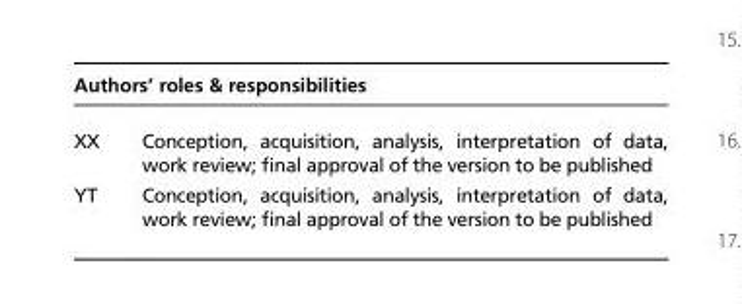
<table><thead><tr><td colspan="2">Authors’ roles &amp; responsibilities</td></tr><tr><td>XX</td><td>Conception, acquisition, analysis, interpretation of data, work review; final approval of the version to be published</td></tr></thead><tbody><tr><td>YT</td><td>Conception, acquisition, analysis, interpretation of data, work review; final approval of the version to be published</td></tr></tbody></table>